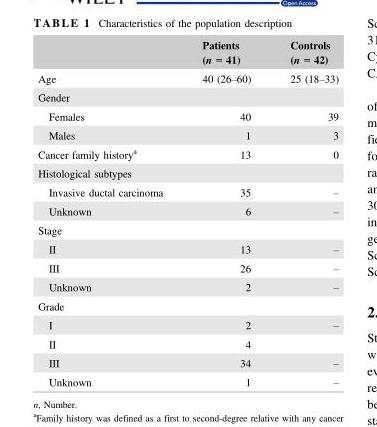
<table><thead><tr><td></td><td>Patients (n = 41)</td><td>Controls (n = 42)</td></tr></thead><tbody><tr><td>Age</td><td>40 (26–60)</td><td>25 (18–33)</td></tr><tr><td colspan="3">Gender</td></tr><tr><td>Females</td><td>40</td><td>39</td></tr><tr><td>Males</td><td>1</td><td>3</td></tr><tr><td>Cancer family history<sup>a</sup></td><td>13</td><td>0</td></tr><tr><td colspan="3">Histological subtypes</td></tr><tr><td>Invasive ductal carcinoma</td><td>35</td><td>–</td></tr><tr><td>Unknown</td><td>6</td><td>–</td></tr><tr><td colspan="3">Stage</td></tr><tr><td>II</td><td>13</td><td>–</td></tr><tr><td>III</td><td>26</td><td>–</td></tr><tr><td>Unknown</td><td>2</td><td>–</td></tr><tr><td colspan="3">Grade</td></tr><tr><td>I</td><td>2</td><td>–</td></tr><tr><td>II</td><td>4</td><td></td></tr><tr><td>III</td><td>34</td><td>–</td></tr><tr><td>Unknown</td><td>1</td><td>–</td></tr></tbody></table>